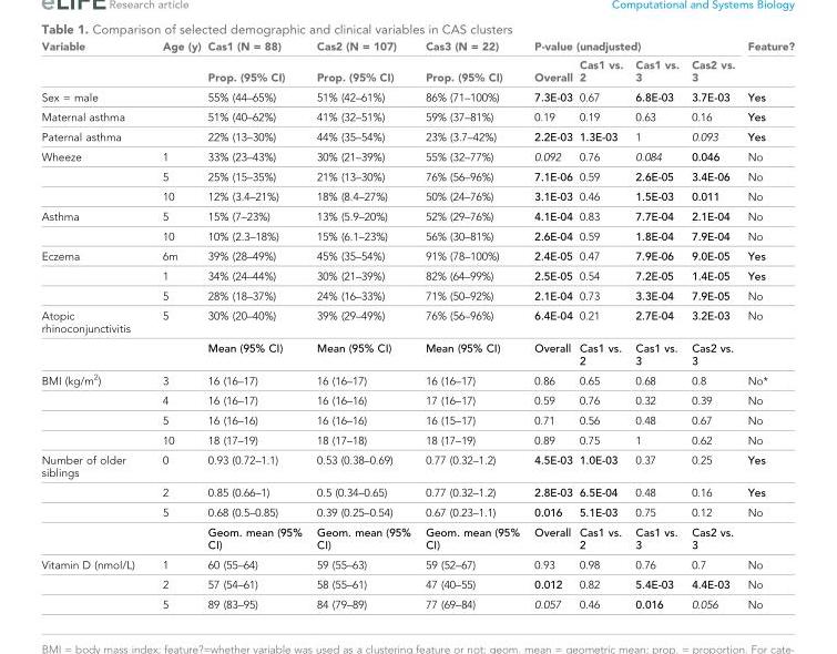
<table><thead><tr><td rowspan="2">Variable</td><td rowspan="2">Age (y)</td><td rowspan="2">Cas1 (N = 88) Prop. (95% CI)</td><td rowspan="2">Cas2 (N = 107) Prop. (95% CI)</td><td rowspan="2">Cas3 (N = 22) Prop. (95% CI)</td><td colspan="4">P-value (unadjusted)</td><td rowspan="2">Feature?</td></tr><tr><td>Overall</td><td>Cas1 vs. 2</td><td>Cas1 vs. 3</td><td>Cas2 vs. 3</td></tr></thead><tbody><tr><td>Sex = male</td><td></td><td>55% (44–65%)</td><td>51% (42–61%)</td><td>86% (71–100%)</td><td>7.3E-03</td><td>0.67</td><td>6.8E-03</td><td>3.7E-03</td><td>Yes</td></tr><tr><td>Maternal asthma</td><td></td><td>51% (40–62%)</td><td>41% (32–51%)</td><td>59% (37–81%)</td><td>0.19</td><td>0.19</td><td>0.63</td><td>0.16</td><td>Yes</td></tr><tr><td>Paternal asthma</td><td></td><td>22% (13–30%)</td><td>44% (35–54%)</td><td>23% (3.7–42%)</td><td>2.2E-03</td><td>1.3E-03</td><td>1</td><td>0.093</td><td>Yes</td></tr><tr><td rowspan="3">Wheeze</td><td>1</td><td>33% (23–43%)</td><td>30% (21–39%)</td><td>55% (32–77%)</td><td>0.092</td><td>0.76</td><td>0.084</td><td>0.046</td><td>No</td></tr><tr><td>5</td><td>25% (15–35%)</td><td>21% (13–30%)</td><td>76% (56–96%)</td><td>7.1E-06</td><td>0.59</td><td>2.6E-05</td><td>3.4E-06</td><td>No</td></tr><tr><td>10</td><td>12% (3.4–21%)</td><td>18% (8.4–27%)</td><td>50% (24–76%)</td><td>3.1E-03</td><td>0.46</td><td>1.5E-03</td><td>0.011</td><td>No</td></tr><tr><td rowspan="2">Asthma</td><td>5</td><td>15% (7–23%)</td><td>13% (5.9–20%)</td><td>52% (29–76%)</td><td>4.1E-04</td><td>0.83</td><td>7.7E-04</td><td>2.1E-04</td><td>No</td></tr><tr><td>10</td><td>10% (2.3–18%)</td><td>15% (6.1–23%)</td><td>56% (30–81%)</td><td>2.6E-04</td><td>0.59</td><td>1.8E-04</td><td>7.9E-04</td><td>No</td></tr><tr><td rowspan="3">Eczema</td><td>6m</td><td>39% (28–49%)</td><td>45% (35–54%)</td><td>91% (78–100%)</td><td>2.4E-05</td><td>0.47</td><td>7.9E-06</td><td>9.0E-05</td><td>Yes</td></tr><tr><td>1</td><td>34% (24–44%)</td><td>30% (21–39%)</td><td>82% (64–99%)</td><td>2.5E-05</td><td>0.54</td><td>7.2E-05</td><td>1.4E-05</td><td>Yes</td></tr><tr><td>5</td><td>28% (18–37%)</td><td>24% (16–33%)</td><td>71% (50–92%)</td><td>2.1E-04</td><td>0.73</td><td>3.3E-04</td><td>7.9E-05</td><td>No</td></tr><tr><td rowspan="2">Atopic rhinoconjunctivitis</td><td>5</td><td>30% (20–40%)</td><td>39% (29–49%)</td><td>76% (56–96%)</td><td>6.4E-04</td><td>0.21</td><td>2.7E-04</td><td>3.2E-03</td><td>No</td></tr><tr><td></td><td>Mean (95% CI)</td><td>Mean (95% CI)</td><td>Mean (95% CI)</td><td>Overall</td><td>Cas1 vs. 2</td><td>Cas1 vs. 3</td><td>Cas2 vs. 3</td><td></td></tr><tr><td rowspan="4">BMI (kg/m<sup>2</sup>)</td><td>3</td><td>16 (16–17)</td><td>16 (16–17)</td><td>16 (16–17)</td><td>0.86</td><td>0.65</td><td>0.68</td><td>0.8</td><td>No*</td></tr><tr><td>4</td><td>16 (16–17)</td><td>16 (16–16)</td><td>17 (16–17)</td><td>0.59</td><td>0.76</td><td>0.32</td><td>0.39</td><td>No</td></tr><tr><td>5</td><td>16 (16–16)</td><td>16 (16–16)</td><td>16 (15–17)</td><td>0.71</td><td>0.56</td><td>0.48</td><td>0.67</td><td>No</td></tr><tr><td>10</td><td>18 (17–19)</td><td>18 (17–18)</td><td>18 (17–19)</td><td>0.89</td><td>0.75</td><td>1</td><td>0.62</td><td>No</td></tr><tr><td rowspan="4">Number of older siblings</td><td>0</td><td>0.93 (0.72–1.1)</td><td>0.53 (0.38–0.69)</td><td>0.77 (0.32–1.2)</td><td>4.5E-03</td><td>1.0E-03</td><td>0.37</td><td>0.25</td><td>Yes</td></tr><tr><td>2</td><td>0.85 (0.66–1)</td><td>0.5 (0.34–0.65)</td><td>0.77 (0.32–1.2)</td><td>2.8E-03</td><td>6.5E-04</td><td>0.48</td><td>0.16</td><td>Yes</td></tr><tr><td>5</td><td>0.68 (0.5–0.85)</td><td>0.39 (0.25–0.54)</td><td>0.67 (0.23–1.1)</td><td>0.016</td><td>5.1E-03</td><td>0.75</td><td>0.12</td><td>No</td></tr><tr><td></td><td>Geom. mean (95% CI)</td><td>Geom. mean (95% CI)</td><td>Geom. mean (95% CI)</td><td>Overall</td><td>Cas1 vs. 2</td><td>Cas1 vs. 3</td><td>Cas2 vs. 3</td><td></td></tr><tr><td rowspan="3">Vitamin D (nmol/L)</td><td>1</td><td>60 (55–64)</td><td>59 (55–63)</td><td>59 (52–67)</td><td>0.93</td><td>0.98</td><td>0.76</td><td>0.7</td><td>No</td></tr><tr><td>2</td><td>57 (54–61)</td><td>58 (55–61)</td><td>47 (40–55)</td><td>0.012</td><td>0.82</td><td>5.4E-03</td><td>4.4E-03</td><td>No</td></tr><tr><td>5</td><td>89 (83–95)</td><td>84 (79–89)</td><td>77 (69–84)</td><td>0.057</td><td>0.46</td><td>0.016</td><td>0.056</td><td>No</td></tr></tbody></table>